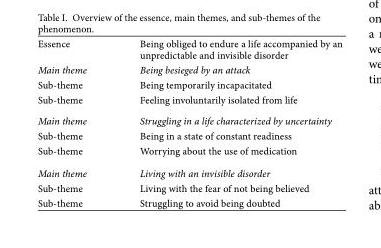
<table><thead><tr><td>Essence</td><td>Being obliged to endure a life accompanied by an unpredictable and invisible disorder</td></tr></thead><tbody><tr><td>Main theme</td><td>Being besieged by an attack</td></tr><tr><td>Sub-theme</td><td>Being temporarily incapacitated</td></tr><tr><td>Sub-theme</td><td>Feeling involuntarily isolated from life</td></tr><tr><td>Main theme</td><td>Struggling in a life characterized by uncertainty</td></tr><tr><td>Sub-theme</td><td>Being in a state of constant readiness</td></tr><tr><td>Sub-theme</td><td>Worrying about the use of medication</td></tr><tr><td>Main theme</td><td>Living with an invisible disorder</td></tr><tr><td>Sub-theme</td><td>Living with the fear of not being believed</td></tr><tr><td>Sub-theme</td><td>Struggling to avoid being doubted</td></tr></tbody></table>